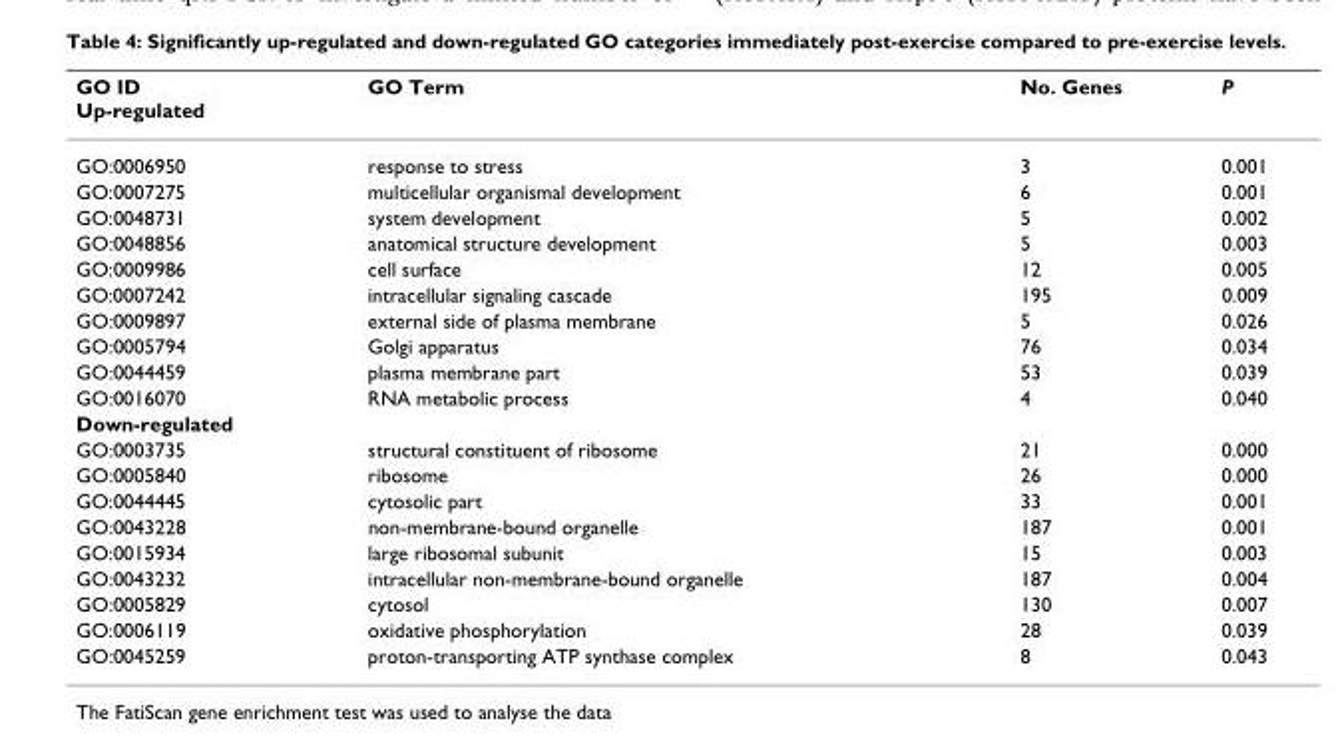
<table><thead><tr><td>GO ID Up-regulated</td><td>GO Term</td><td>No. Genes</td><td>P</td></tr></thead><tbody><tr><td>GO:0006950</td><td>response to stress</td><td>3</td><td>0.001</td></tr><tr><td>GO:0007275</td><td>multicellular organismal development</td><td>6</td><td>0.001</td></tr><tr><td>GO:0048731</td><td>system development</td><td>5</td><td>0.002</td></tr><tr><td>GO:0048856</td><td>anatomical structure development</td><td>5</td><td>0.003</td></tr><tr><td>GO:0009986</td><td>cell surface</td><td>12</td><td>0.005</td></tr><tr><td>GO:0007242</td><td>intracellular signaling cascade</td><td>195</td><td>0.009</td></tr><tr><td>GO:0009897</td><td>external side of plasma membrane</td><td>5</td><td>0.026</td></tr><tr><td>GO:0005794</td><td>Golgi apparatus</td><td>76</td><td>0.034</td></tr><tr><td>GO:0044459</td><td>plasma membrane part</td><td>53</td><td>0.039</td></tr><tr><td>GO:0016070</td><td>RNA metabolic process</td><td>4</td><td>0.040</td></tr><tr><td colspan="4">Down-regulated</td></tr><tr><td>GO:0003735</td><td>structural constituent of ribosome</td><td>21</td><td>0.000</td></tr><tr><td>GO:0005840</td><td>ribosome</td><td>26</td><td>0.000</td></tr><tr><td>GO:0044445</td><td>cytosolic part</td><td>33</td><td>0.001</td></tr><tr><td>GO:0043228</td><td>non-membrane-bound organelle</td><td>187</td><td>0.001</td></tr><tr><td>GO:0015934</td><td>large ribosomal subunit</td><td>15</td><td>0.003</td></tr><tr><td>GO:0043232</td><td>intracellular non-membrane-bound organelle</td><td>187</td><td>0.004</td></tr><tr><td>GO:0005829</td><td>cytosol</td><td>130</td><td>0.007</td></tr><tr><td>GO:0006119</td><td>oxidative phosphorylation</td><td>28</td><td>0.039</td></tr><tr><td>GO:0045259</td><td>proton-transporting ATP synthase complex</td><td>8</td><td>0.043</td></tr></tbody></table>